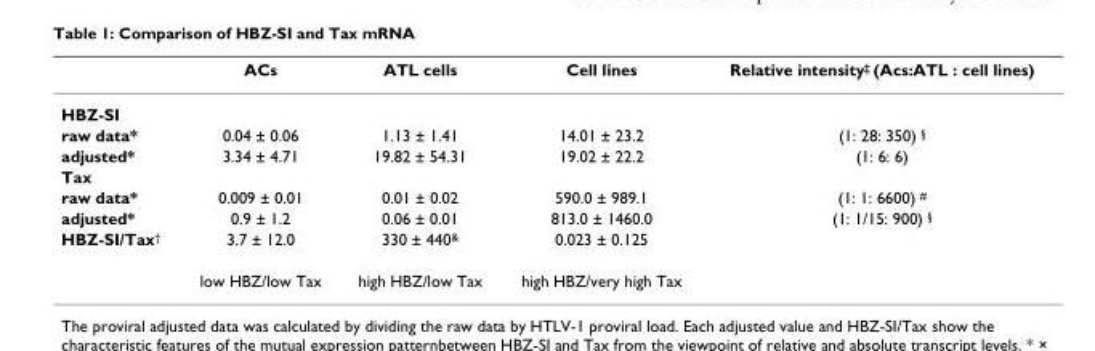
<table><thead><tr><td></td><td>ACs</td><td>ATL cells</td><td>Cell lines</td><td>Relative intensity<sup>‡</sup> (Acs:ATL : cell lines)</td></tr></thead><tbody><tr><td colspan="5">HBZ-SI</td></tr><tr><td>raw data*</td><td>0.04 ± 0.06</td><td>1.13 ± 1.41</td><td>14.01 ± 23.2</td><td>(1: 28: 350) <sup>§</sup></td></tr><tr><td>adjusted*</td><td>3.34 ± 4.71</td><td>19.82 ± 54.31</td><td>19.02 ± 22.2</td><td>(1: 6: 6)</td></tr><tr><td colspan="5">Tax</td></tr><tr><td>raw data*</td><td>0.009 ± 0.01</td><td>0.01 ± 0.02</td><td>590.0 ± 989.1</td><td>(1: 1: 6600) <sup>#</sup></td></tr><tr><td>adjusted*</td><td>0.9 ± 1.2</td><td>0.06 ± 0.01</td><td>813.0 ± 1460.0</td><td>(1: 1/15: 900) <sup>§</sup></td></tr><tr><td rowspan="2">HBZ-SI/Tax<sup>†</sup></td><td>3.7 ± 12.0</td><td>330 ± 440<sup>&amp;</sup></td><td>0.023 ± 0.125</td><td></td></tr><tr><td>low HBZ/low Tax</td><td>high HBZ/low Tax</td><td>high HBZ/very high Tax</td><td></td></tr></tbody></table>